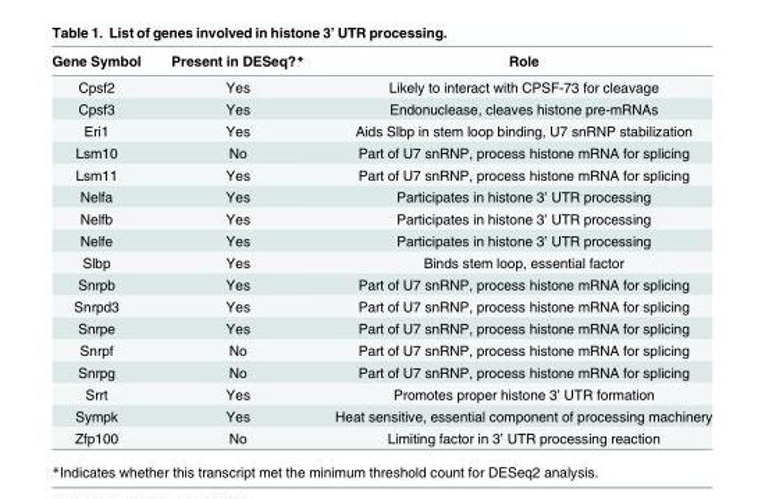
<table><thead><tr><td>Gene Symbol</td><td>Present in DESeq?*</td><td>Role</td></tr></thead><tbody><tr><td>Cpsf2</td><td>Yes</td><td>Likely to interact with CPSF-73 for cleavage</td></tr><tr><td>Cpsf3</td><td>Yes</td><td>Endonuclease, cleaves histone pre-mRNAs</td></tr><tr><td>Eri1</td><td>Yes</td><td>Aids Slbp in stem loop binding, U7 snRNP stabilization</td></tr><tr><td>Lsm10</td><td>No</td><td>Part of U7 snRNP, process histone mRNA for splicing</td></tr><tr><td>Lsm11</td><td>Yes</td><td>Part of U7 snRNP, process histone mRNA for splicing</td></tr><tr><td>Nelfa</td><td>Yes</td><td>Participates in histone 3’ UTR processing</td></tr><tr><td>Nelfb</td><td>Yes</td><td>Participates in histone 3’ UTR processing</td></tr><tr><td>Nelfe</td><td>Yes</td><td>Participates in histone 3’ UTR processing</td></tr><tr><td>Slbp</td><td>Yes</td><td>Binds stem loop, essential factor</td></tr><tr><td>Snrpb</td><td>Yes</td><td>Part of U7 snRNP, process histone mRNA for splicing</td></tr><tr><td>Snrpd3</td><td>Yes</td><td>Part of U7 snRNP, process histone mRNA for splicing</td></tr><tr><td>Snrpe</td><td>Yes</td><td>Part of U7 snRNP, process histone mRNA for splicing</td></tr><tr><td>Snrpf</td><td>No</td><td>Part of U7 snRNP, process histone mRNA for splicing</td></tr><tr><td>Snrpg</td><td>No</td><td>Part of U7 snRNP, process histone mRNA for splicing</td></tr><tr><td>Srrt</td><td>Yes</td><td>Promotes proper histone 3’ UTR formation</td></tr><tr><td>Sympk</td><td>Yes</td><td>Heat sensitive, essential component of processing machinery</td></tr><tr><td>Zfp100</td><td>No</td><td>Limiting factor in 3’ UTR processing reaction</td></tr></tbody></table>